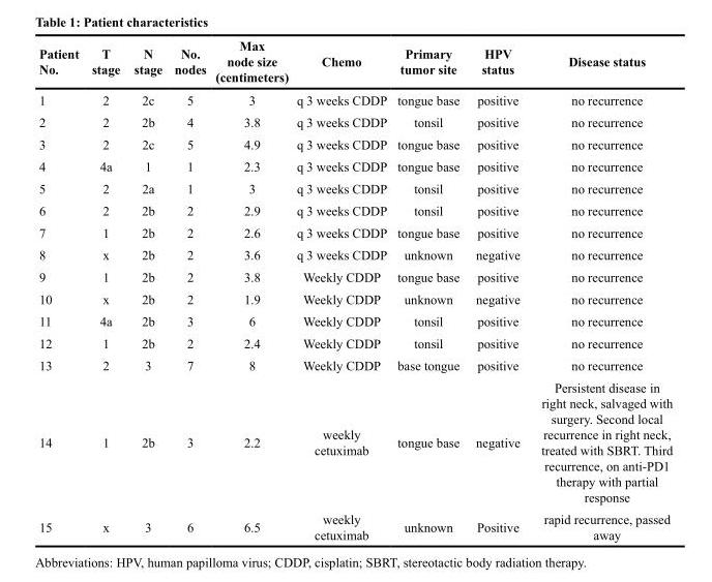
<table><thead><tr><td>Patient No.</td><td>T stage</td><td>N stage</td><td>No. nodes</td><td>Max node size (centimeters)</td><td>Chemo</td><td>Primary tumor site</td><td>HPV status</td><td>Disease status</td></tr></thead><tbody><tr><td>1</td><td>2</td><td>2c</td><td>5</td><td>3</td><td>q 3 weeks CDDP</td><td>tongue base</td><td>positive</td><td>no recurrence</td></tr><tr><td>2</td><td>2</td><td>2b</td><td>4</td><td>3.8</td><td>q 3 weeks CDDP</td><td>tonsil</td><td>positive</td><td>no recurrence</td></tr><tr><td>3</td><td>2</td><td>2c</td><td>5</td><td>4.9</td><td>q 3 weeks CDDP</td><td>tongue base</td><td>positive</td><td>no recurrence</td></tr><tr><td>4</td><td>4a</td><td>1</td><td>1</td><td>2.3</td><td>q 3 weeks CDDP</td><td>tongue base</td><td>positive</td><td>no recurrence</td></tr><tr><td>5</td><td>2</td><td>2a</td><td>1</td><td>3</td><td>q 3 weeks CDDP</td><td>tonsil</td><td>positive</td><td>no recurrence</td></tr><tr><td>6</td><td>2</td><td>2b</td><td>2</td><td>2.9</td><td>q 3 weeks CDDP</td><td>tonsil</td><td>positive</td><td>no recurrence</td></tr><tr><td>7</td><td>1</td><td>2b</td><td>2</td><td>2.6</td><td>q 3 weeks CDDP</td><td>tongue base</td><td>positive</td><td>no recurrence</td></tr><tr><td>8</td><td>x</td><td>2b</td><td>2</td><td>3.6</td><td>q 3 weeks CDDP</td><td>unknown</td><td>negative</td><td>no recurrence</td></tr><tr><td>9</td><td>1</td><td>2b</td><td>2</td><td>3.8</td><td>Weekly CDDP</td><td>tongue base</td><td>positive</td><td>no recurrence</td></tr><tr><td>10</td><td>x</td><td>2b</td><td>2</td><td>1.9</td><td>Weekly CDDP</td><td>unknown</td><td>negative</td><td>no recurrence</td></tr><tr><td>11</td><td>4a</td><td>2b</td><td>3</td><td>6</td><td>Weekly CDDP</td><td>tonsil</td><td>positive</td><td>no recurrence</td></tr><tr><td>12</td><td>1</td><td>2b</td><td>2</td><td>2.4</td><td>Weekly CDDP</td><td>tonsil</td><td>positive</td><td>no recurrence</td></tr><tr><td>13</td><td>2</td><td>3</td><td>7</td><td>8</td><td>Weekly CDDP</td><td>base tongue</td><td>positive</td><td>no recurrence</td></tr><tr><td>14</td><td>1</td><td>2b</td><td>3</td><td>2.2</td><td>weekly cetuximab</td><td>tongue base</td><td>negative</td><td>Persistent disease in right neck, salvaged with surgery. Second local recurrence in right neck, treated with SBRT. Third recurrence, on anti-PD1 therapy with partial response</td></tr><tr><td>15</td><td>x</td><td>3</td><td>6</td><td>6.5</td><td>weekly cetuximab</td><td>unknown</td><td>Positive</td><td>rapid recurrence, passed away</td></tr></tbody></table>